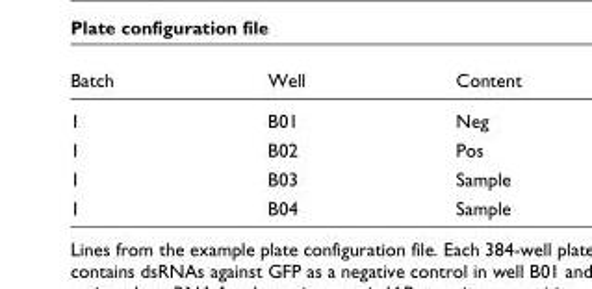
<table><thead><tr><td>Batch</td><td>Well</td><td>Content</td></tr></thead><tbody><tr><td>1</td><td>B01</td><td>Neg</td></tr><tr><td>1</td><td>B02</td><td>Pos</td></tr><tr><td>1</td><td>B03</td><td>Sample</td></tr><tr><td>1</td><td>B04</td><td>Sample</td></tr></tbody></table>